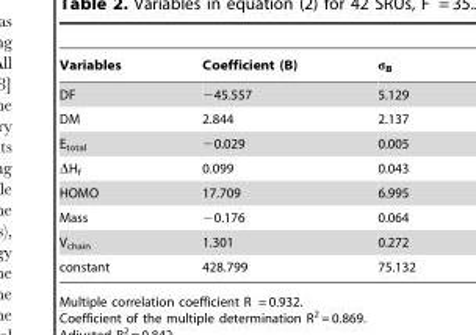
<table><thead><tr><td>Variables</td><td>Coefficient (B)</td><td>σ<sub>B</sub></td></tr></thead><tbody><tr><td>DF</td><td>−45.557</td><td>5.129</td></tr><tr><td>DM</td><td>2.844</td><td>2.137</td></tr><tr><td>E<sub>total</sub></td><td>−0.029</td><td>0.005</td></tr><tr><td>ΔH<sub>f</sub></td><td>0.099</td><td>0.043</td></tr><tr><td>HOMO</td><td>17.709</td><td>6.995</td></tr><tr><td>Mass</td><td>−0.176</td><td>0.064</td></tr><tr><td>V<sub>chain</sub></td><td>1.301</td><td>0.272</td></tr><tr><td>constant</td><td>428.799</td><td>75.132</td></tr></tbody></table>